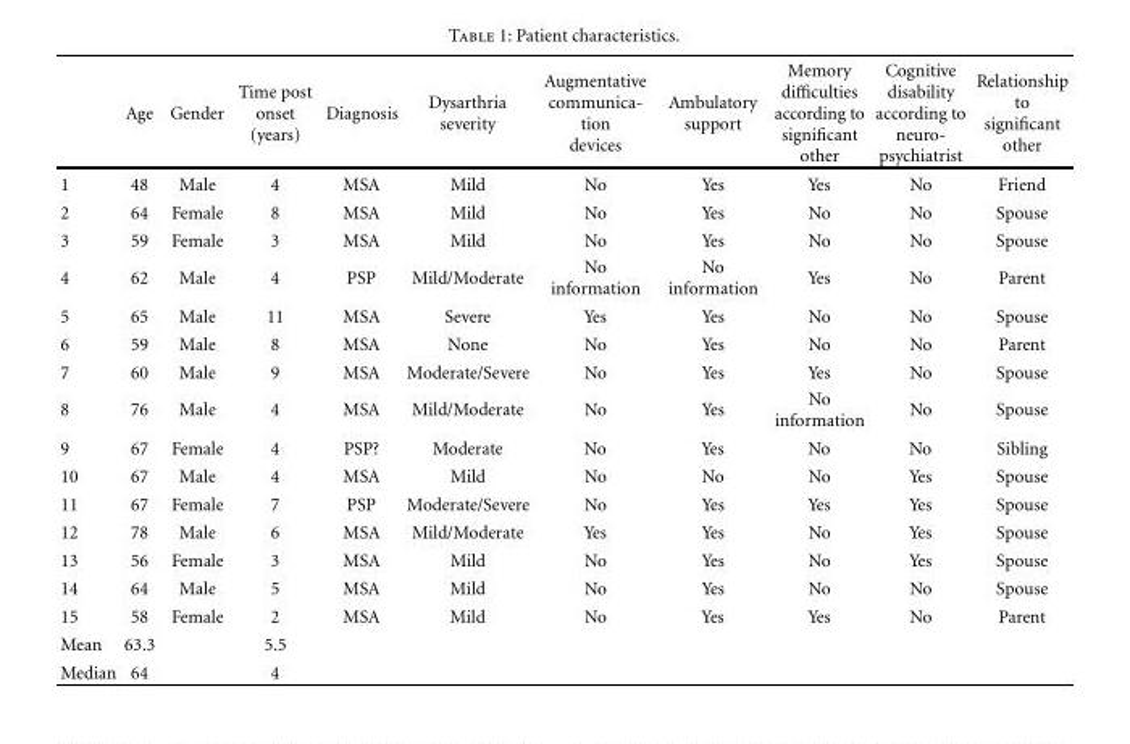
<table><thead><tr><td></td><td>Age</td><td>Gender</td><td>Time post onset (years)</td><td>Diagnosis</td><td>Dysarthria severity</td><td>Augmentative communica- tion devices</td><td>Ambulatory support</td><td>Memory difficulties according to significant other</td><td>Cognitive disability according to neuro- psychiatrist</td><td>Relationship to significant other</td></tr></thead><tbody><tr><td>1</td><td>48</td><td>Male</td><td>4</td><td>MSA</td><td>Mild</td><td>No</td><td>Yes</td><td>Yes</td><td>No</td><td>Friend</td></tr><tr><td>2</td><td>64</td><td>Female</td><td>8</td><td>MSA</td><td>Mild</td><td>No</td><td>Yes</td><td>No</td><td>No</td><td>Spouse</td></tr><tr><td>3</td><td>59</td><td>Female</td><td>3</td><td>MSA</td><td>Mild</td><td>No</td><td>Yes</td><td>No</td><td>No</td><td>Spouse</td></tr><tr><td>4</td><td>62</td><td>Male</td><td>4</td><td>PSP</td><td>Mild/Moderate</td><td>No information</td><td>No information</td><td>Yes</td><td>No</td><td>Parent</td></tr><tr><td>5</td><td>65</td><td>Male</td><td>11</td><td>MSA</td><td>Severe</td><td>Yes</td><td>Yes</td><td>No</td><td>No</td><td>Spouse</td></tr><tr><td>6</td><td>59</td><td>Male</td><td>8</td><td>MSA</td><td>None</td><td>No</td><td>Yes</td><td>No</td><td>No</td><td>Parent</td></tr><tr><td>7</td><td>60</td><td>Male</td><td>9</td><td>MSA</td><td>Moderate/Severe</td><td>No</td><td>Yes</td><td>Yes</td><td>No</td><td>Spouse</td></tr><tr><td>8</td><td>76</td><td>Male</td><td>4</td><td>MSA</td><td>Mild/Moderate</td><td>No</td><td>Yes</td><td>No information</td><td>No</td><td>Spouse</td></tr><tr><td>9</td><td>67</td><td>Female</td><td>4</td><td>PSP?</td><td>Moderate</td><td>No</td><td>Yes</td><td>No</td><td>No</td><td>Sibling</td></tr><tr><td>10</td><td>67</td><td>Male</td><td>4</td><td>MSA</td><td>Mild</td><td>No</td><td>No</td><td>No</td><td>Yes</td><td>Spouse</td></tr><tr><td>11</td><td>67</td><td>Female</td><td>7</td><td>PSP</td><td>Moderate/Severe</td><td>No</td><td>Yes</td><td>Yes</td><td>Yes</td><td>Spouse</td></tr><tr><td>12</td><td>78</td><td>Male</td><td>6</td><td>MSA</td><td>Mild/Moderate</td><td>Yes</td><td>Yes</td><td>No</td><td>Yes</td><td>Spouse</td></tr><tr><td>13</td><td>56</td><td>Female</td><td>3</td><td>MSA</td><td>Mild</td><td>No</td><td>Yes</td><td>No</td><td>Yes</td><td>Spouse</td></tr><tr><td>14</td><td>64</td><td>Male</td><td>5</td><td>MSA</td><td>Mild</td><td>No</td><td>Yes</td><td>No</td><td>No</td><td>Spouse</td></tr><tr><td>15</td><td>58</td><td>Female</td><td>2</td><td>MSA</td><td>Mild</td><td>No</td><td>Yes</td><td>Yes</td><td>No</td><td>Parent</td></tr><tr><td>Mean</td><td>63.3</td><td></td><td>5.5</td><td></td><td></td><td></td><td></td><td></td><td></td><td></td></tr><tr><td>Median</td><td>64</td><td></td><td>4</td><td></td><td></td><td></td><td></td><td></td><td></td><td></td></tr></tbody></table>